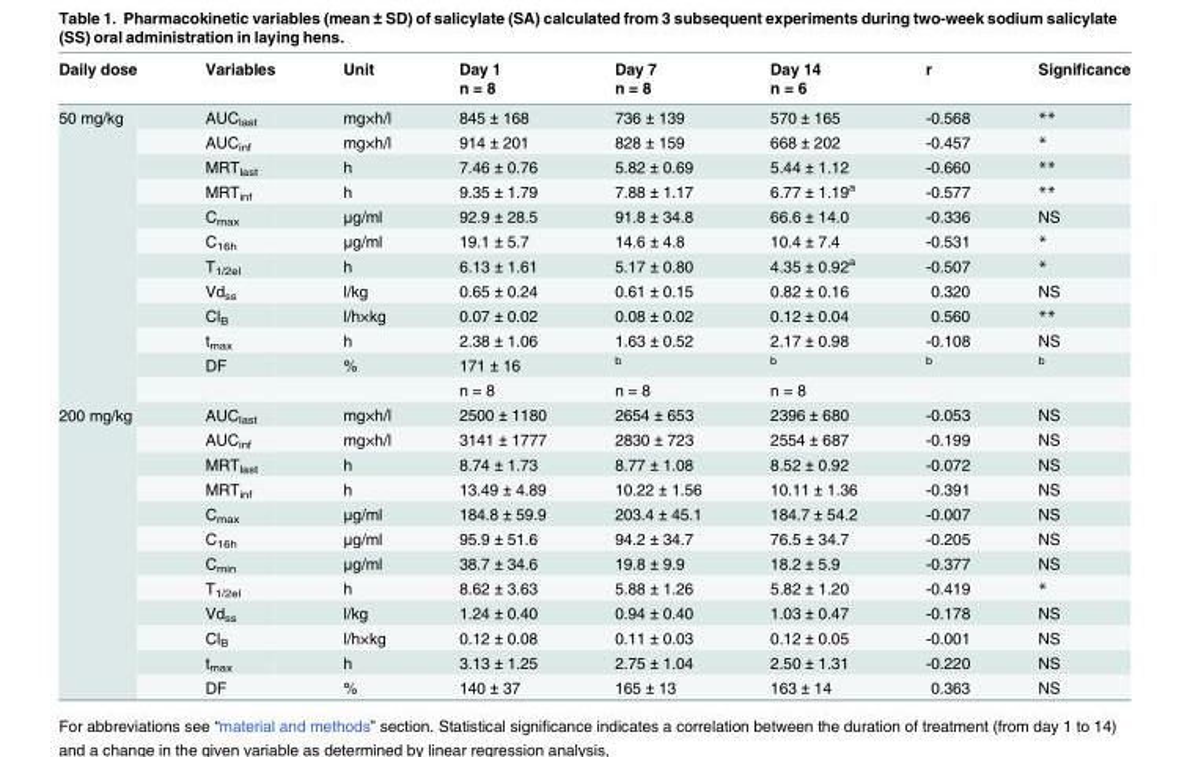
<table><thead><tr><td rowspan="2">Daily dose</td><td rowspan="2">Variables</td><td rowspan="2">Unit</td><td rowspan="2">Day 1 n = 8</td><td rowspan="2">Day 7 n = 8</td><td rowspan="2">Day 14 n = 6</td><td rowspan="2">r</td><td rowspan="2">Significance</td></tr><tr></tr></thead><tbody><tr><td rowspan="12">50 mg/kg</td><td>AUC<sub>last</sub></td><td>mg×h/l</td><td>845 ± 168</td><td>736 ± 139</td><td>570 ± 165</td><td>-0.568</td><td>**</td></tr><tr><td>AUC<sub>inf</sub></td><td>mg×h/l</td><td>914 ± 201</td><td>828 ± 159</td><td>668 ± 202</td><td>-0.457</td><td>*</td></tr><tr><td>MRT<sub>last</sub></td><td>h</td><td>7.46 ± 0.76</td><td>5.82 ± 0.69</td><td>5.44 ± 1.12</td><td>-0.660</td><td>**</td></tr><tr><td>MRT<sub>inf</sub></td><td>h</td><td>9.35 ± 1.79</td><td>7.88 ± 1.17</td><td>6.77 ± 1.19<sup>a</sup></td><td>-0.577</td><td>**</td></tr><tr><td>C<sub>max</sub></td><td>μg/ml</td><td>92.9 ± 28.5</td><td>91.8 ± 34.8</td><td>66.6 ± 14.0</td><td>-0.336</td><td>NS</td></tr><tr><td>C<sub>16h</sub></td><td>μg/ml</td><td>19.1 ± 5.7</td><td>14.6 ± 4.8</td><td>10.4 ± 7.4</td><td>-0.531</td><td>*</td></tr><tr><td>T<sub>1/2el</sub></td><td>h</td><td>6.13 ± 1.61</td><td>5.17 ± 0.80</td><td>4.35 ± 0.92<sup>a</sup></td><td>-0.507</td><td>*</td></tr><tr><td>Vd<sub>ss</sub></td><td>l/kg</td><td>0.65 ± 0.24</td><td>0.61 ± 0.15</td><td>0.82 ± 0.16</td><td>0.320</td><td>NS</td></tr><tr><td>Cl<sub>B</sub></td><td>l/h×kg</td><td>0.07 ± 0.02</td><td>0.08 ± 0.02</td><td>0.12 ± 0.04</td><td>0.560</td><td>**</td></tr><tr><td>t<sub>max</sub></td><td>h</td><td>2.38 ± 1.06</td><td>1.63 ± 0.52</td><td>2.17 ± 0.98</td><td>-0.108</td><td>NS</td></tr><tr><td>DF</td><td>%</td><td>171 ± 16</td><td><sup>b</sup></td><td><sup>b</sup></td><td><sup>b</sup></td><td><sup>b</sup></td></tr><tr><td colspan="2"></td><td>n = 8</td><td>n = 8</td><td>n = 8</td><td colspan="2"></td></tr><tr><td rowspan="12">200 mg/kg</td><td>AUC<sub>last</sub></td><td>mg×h/l</td><td>2500 ± 1180</td><td>2654 ± 653</td><td>2396 ± 680</td><td>-0.053</td><td>NS</td></tr><tr><td>AUC<sub>inf</sub></td><td>mg×h/l</td><td>3141 ± 1777</td><td>2830 ± 723</td><td>2554 ± 687</td><td>-0.199</td><td>NS</td></tr><tr><td>MRT<sub>last</sub></td><td>h</td><td>8.74 ± 1.73</td><td>8.77 ± 1.08</td><td>8.52 ± 0.92</td><td>-0.072</td><td>NS</td></tr><tr><td>MRT<sub>inf</sub></td><td>h</td><td>13.49 ± 4.89</td><td>10.22 ± 1.56</td><td>10.11 ± 1.36</td><td>-0.391</td><td>NS</td></tr><tr><td>C<sub>max</sub></td><td>μg/ml</td><td>184.8 ± 59.9</td><td>203.4 ± 45.1</td><td>184.7 ± 54.2</td><td>-0.007</td><td>NS</td></tr><tr><td>C<sub>16h</sub></td><td>μg/ml</td><td>95.9 ± 51.6</td><td>94.2 ± 34.7</td><td>76.5 ± 34.7</td><td>-0.205</td><td>NS</td></tr><tr><td>C<sub>min</sub></td><td>μg/ml</td><td>38.7 ± 34.6</td><td>19.8 ± 9.9</td><td>18.2 ± 5.9</td><td>-0.377</td><td>NS</td></tr><tr><td>T<sub>1/2el</sub></td><td>h</td><td>8.62 ± 3.63</td><td>5.88 ± 1.26</td><td>5.82 ± 1.20</td><td>-0.419</td><td>*</td></tr><tr><td>Vd<sub>ss</sub></td><td>l/kg</td><td>1.24 ± 0.40</td><td>0.94 ± 0.40</td><td>1.03 ± 0.47</td><td>-0.178</td><td>NS</td></tr><tr><td>Cl<sub>B</sub></td><td>l/h×kg</td><td>0.12 ± 0.08</td><td>0.11 ± 0.03</td><td>0.12 ± 0.05</td><td>-0.001</td><td>NS</td></tr><tr><td>t<sub>max</sub></td><td>h</td><td>3.13 ± 1.25</td><td>2.75 ± 1.04</td><td>2.50 ± 1.31</td><td>-0.220</td><td>NS</td></tr><tr><td>DF</td><td>%</td><td>140 ± 37</td><td>165 ± 13</td><td>163 ± 14</td><td>0.363</td><td>NS</td></tr></tbody></table>